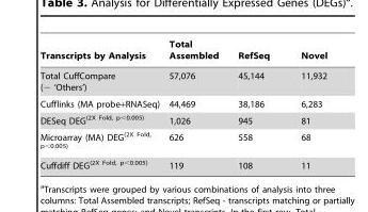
<table><thead><tr><td>Transcripts by Analysis</td><td>Total Assembled</td><td>RefSeq</td><td>Novel</td></tr></thead><tbody><tr><td>Total CuffCompare (− ‘Others’)</td><td>57,076</td><td>45,144</td><td>11,932</td></tr><tr><td>Cufflinks (MA probe+RNASeq)</td><td>44,469</td><td>38,186</td><td>6,283</td></tr><tr><td>DESeq DEG<sup>(2X Fold, p&lt;0.005)</sup></td><td>1,026</td><td>945</td><td>81</td></tr><tr><td>Microarray (MA) DEG<sup>(2X Fold, p&lt;0.005)</sup></td><td>626</td><td>558</td><td>68</td></tr><tr><td>Cuffdiff DEG<sup>(2X Fold, p&lt;0.005)</sup></td><td>119</td><td>108</td><td>11</td></tr></tbody></table>